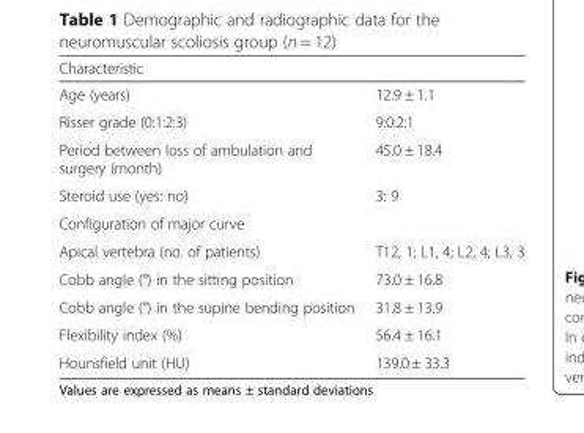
<table><thead><tr><td>Characteristic</td><td></td></tr></thead><tbody><tr><td>Age (years)</td><td>12.9 ± 1.1</td></tr><tr><td>Risser grade (0:1:2:3)</td><td>9:0:2:1</td></tr><tr><td>Period between loss of ambulation and surgery (month)</td><td>45.0 ± 18.4</td></tr><tr><td>Steroid use (yes: no)</td><td>3: 9</td></tr><tr><td colspan="2">Configuration of major curve</td></tr><tr><td>Apical vertebra (no. of patients)</td><td>T12, 1; L1, 4; L2, 4; L3, 3</td></tr><tr><td>Cobb angle (°) in the sitting position</td><td>73.0 ± 16.8</td></tr><tr><td>Cobb angle (°) in the supine bending position</td><td>31.8 ± 13.9</td></tr><tr><td>Flexibility index (%)</td><td>56.4 ± 16.1</td></tr><tr><td>Hounsfield unit (HU)</td><td>139.0 ± 33.3</td></tr></tbody></table>